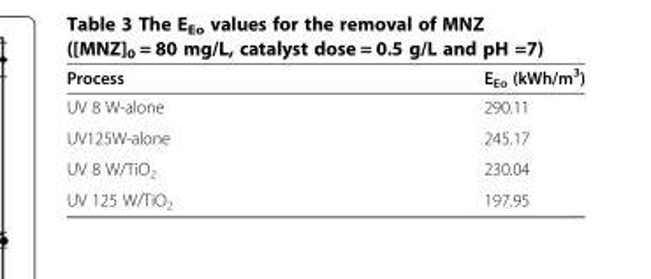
<table><thead><tr><td>Process</td><td>E<sub>Eo</sub> (kWh/m<sup>3</sup>)</td></tr></thead><tbody><tr><td>UV 8 W-alone</td><td>290.11</td></tr><tr><td>UV125W-alone</td><td>245.17</td></tr><tr><td>UV 8 W/TiO<sub>2</sub></td><td>230.04</td></tr><tr><td>UV 125 W/TiO<sub>2</sub></td><td>197.95</td></tr></tbody></table>